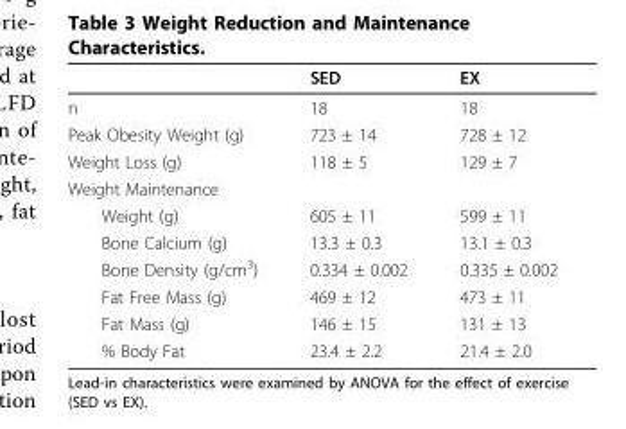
<table><thead><tr><td></td><td>SED</td><td>EX</td></tr></thead><tbody><tr><td>n</td><td>18</td><td>18</td></tr><tr><td>Peak Obesity Weight (g)</td><td>723 ± 14</td><td>728 ± 12</td></tr><tr><td>Weight Loss (g)</td><td>118 ± 5</td><td>129 ± 7</td></tr><tr><td colspan="3">Weight Maintenance</td></tr><tr><td>Weight (g)</td><td>605 ± 11</td><td>599 ± 11</td></tr><tr><td>Bone Calcium (g)</td><td>13.3 ± 0.3</td><td>13.1 ± 0.3</td></tr><tr><td>Bone Density (g/cm<sup>3</sup>)</td><td>0.334 ± 0.002</td><td>0.335 ± 0.002</td></tr><tr><td>Fat Free Mass (g)</td><td>469 ± 12</td><td>473 ± 11</td></tr><tr><td>Fat Mass (g)</td><td>146 ± 15</td><td>131 ± 13</td></tr><tr><td>% Body Fat</td><td>23.4 ± 2.2</td><td>21.4 ± 2.0</td></tr></tbody></table>